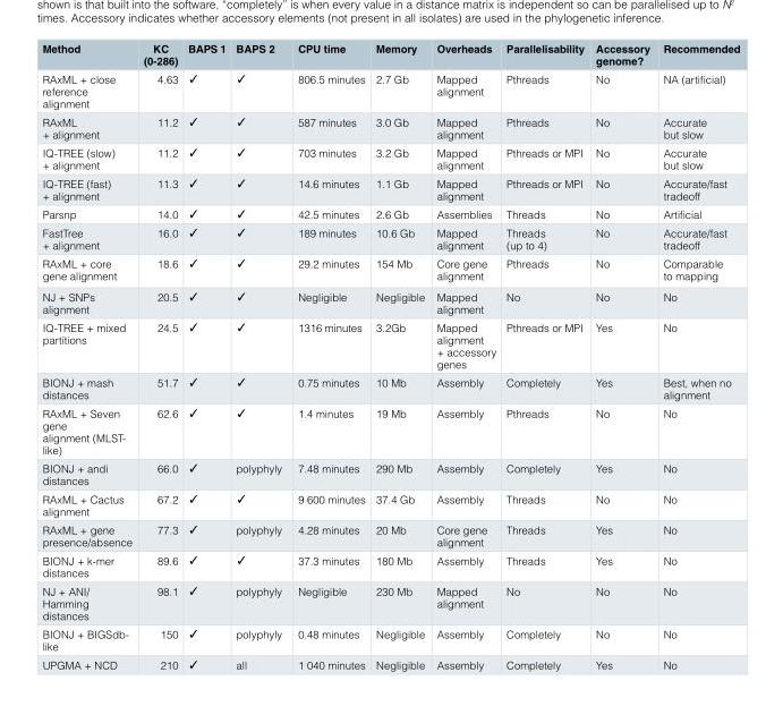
<table><thead><tr><td>Method</td><td>KC (0-286)</td><td>BAPS 1</td><td>BAPS 2</td><td>CPU time</td><td>Memory</td><td>Overheads</td><td>Parallelisability</td><td>Accessory genome?</td><td>Recommended</td></tr></thead><tbody><tr><td>RAxML + close reference alignment</td><td>4.63</td><td>✓</td><td>✓</td><td>806.5 minutes</td><td>2.7 Gb</td><td>Mapped alignment</td><td>Pthreads</td><td>No</td><td>NA (artificial)</td></tr><tr><td>RAxML + alignment</td><td>11.2</td><td>✓</td><td>✓</td><td>587 minutes</td><td>3.0 Gb</td><td>Mapped alignment</td><td>Pthreads</td><td>No</td><td>Accurate but slow</td></tr><tr><td>IQ-TREE (slow) + alignment</td><td>11.2</td><td>✓</td><td>✓</td><td>703 minutes</td><td>3.2 Gb</td><td>Mapped alignment</td><td>Pthreads or MPI</td><td>No</td><td>Accurate but slow</td></tr><tr><td>IQ-TREE (fast) + alignment</td><td>11.3</td><td>✓</td><td>✓</td><td>14.6 minutes</td><td>1.1 Gb</td><td>Mapped alignment</td><td>Pthreads or MPI</td><td>No</td><td>Accurate/fast tradeoff</td></tr><tr><td>Parsnp</td><td>14.0</td><td>✓</td><td>✓</td><td>42.5 minutes</td><td>2.6 Gb</td><td>Assemblies</td><td>Threads</td><td>No</td><td>Artificial</td></tr><tr><td>FastTree + alignment</td><td>16.0</td><td>✓</td><td>✓</td><td>189 minutes</td><td>10.6 Gb</td><td>Mapped alignment</td><td>Threads (up to 4)</td><td>No</td><td>Accurate/fast tradeoff</td></tr><tr><td>RAxML + core gene alignment</td><td>18.6</td><td>✓</td><td>✓</td><td>29.2 minutes</td><td>154 Mb</td><td>Core gene alignment</td><td>Pthreads</td><td>No</td><td>Comparable to mapping</td></tr><tr><td>NJ + SNPs alignment</td><td>20.5</td><td>✓</td><td>✓</td><td>Negligible</td><td>Negligible</td><td>Mapped alignment</td><td>No</td><td>No</td><td>No</td></tr><tr><td>IQ-TREE + mixed partitions</td><td>24.5</td><td>✓</td><td>✓</td><td>1316 minutes</td><td>3.2Gb</td><td>Mapped alignment + accessory genes</td><td>Pthreads or MPI</td><td>Yes</td><td>No</td></tr><tr><td>BIONJ + mash distances</td><td>51.7</td><td>✓</td><td>✓</td><td>0.75 minutes</td><td>10 Mb</td><td>Assembly</td><td>Completely</td><td>Yes</td><td>Best, when no alignment</td></tr><tr><td>RAxML + Seven gene alignment (MLST- like)</td><td>62.6</td><td>✓</td><td>✓</td><td>1.4 minutes</td><td>19 Mb</td><td>Assembly</td><td>Pthreads</td><td>No</td><td>No</td></tr><tr><td>BIONJ + andi distances</td><td>66.0</td><td>✓</td><td>polyphyly</td><td>7.48 minutes</td><td>290 Mb</td><td>Assembly</td><td>Completely</td><td>Yes</td><td>No</td></tr><tr><td>RAxML + Cactus alignment</td><td>67.2</td><td>✓</td><td>✓</td><td>9 600 minutes</td><td>37.4 Gb</td><td>Assembly</td><td>Threads</td><td>No</td><td>No</td></tr><tr><td>RAxML + gene presence/absence</td><td>77.3</td><td>✓</td><td>polyphyly</td><td>4.28 minutes</td><td>20 Mb</td><td>Core gene alignment</td><td>Threads</td><td>Yes</td><td>No</td></tr><tr><td>BIONJ + k-mer distances</td><td>89.6</td><td>✓</td><td>✓</td><td>37.3 minutes</td><td>180 Mb</td><td>Assembly</td><td>Threads</td><td>Yes</td><td>No</td></tr><tr><td>NJ + ANI/ Hamming distances</td><td>98.1</td><td>✓</td><td>polyphyly</td><td>Negligible</td><td>230 Mb</td><td>Mapped alignment</td><td>No</td><td>No</td><td>No</td></tr><tr><td>BIONJ + BIGSdb- like</td><td>150</td><td>✓</td><td>polyphyly</td><td>0.48 minutes</td><td>Negligible</td><td>Assembly</td><td>Completely</td><td>No</td><td>No</td></tr><tr><td>UPGMA + NCD</td><td>210</td><td>✓</td><td>all</td><td>1 040 minutes</td><td>Negligible</td><td>Assembly</td><td>Completely</td><td>Yes</td><td>No</td></tr></tbody></table>